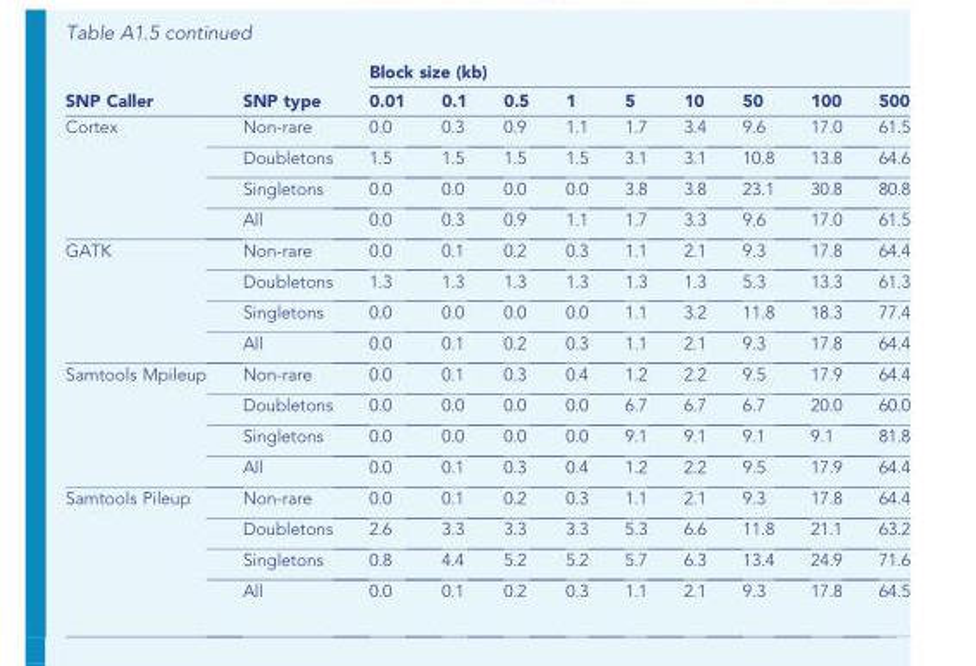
<table><thead><tr><td rowspan="2">SNP Caller</td><td rowspan="2">SNP type</td><td colspan="9">Block size (kb)</td></tr><tr><td>0.01</td><td>0.1</td><td>0.5</td><td>1</td><td>5</td><td>10</td><td>50</td><td>100</td><td>500</td></tr></thead><tbody><tr><td rowspan="4">Cortex</td><td>Non-rare</td><td>0.0</td><td>0.3</td><td>0.9</td><td>1.1</td><td>1.7</td><td>3.4</td><td>9.6</td><td>17.0</td><td>61.5</td></tr><tr><td>Doubletons</td><td>1.5</td><td>1.5</td><td>1.5</td><td>1.5</td><td>3.1</td><td>3.1</td><td>10.8</td><td>13.8</td><td>64.6</td></tr><tr><td>Singletons</td><td>0.0</td><td>0.0</td><td>0.0</td><td>0.0</td><td>3.8</td><td>3.8</td><td>23.1</td><td>30.8</td><td>80.8</td></tr><tr><td>All</td><td>0.0</td><td>0.3</td><td>0.9</td><td>1.1</td><td>1.7</td><td>3.3</td><td>9.6</td><td>17.0</td><td>61.5</td></tr><tr><td rowspan="4">GATK</td><td>Non-rare</td><td>0.0</td><td>0.1</td><td>0.2</td><td>0.3</td><td>1.1</td><td>2.1</td><td>9.3</td><td>17.8</td><td>64.4</td></tr><tr><td>Doubletons</td><td>1.3</td><td>1.3</td><td>1.3</td><td>1.3</td><td>1.3</td><td>1.3</td><td>5.3</td><td>13.3</td><td>61.3</td></tr><tr><td>Singletons</td><td>0.0</td><td>0.0</td><td>0.0</td><td>0.0</td><td>1.1</td><td>3.2</td><td>11.8</td><td>18.3</td><td>77.4</td></tr><tr><td>All</td><td>0.0</td><td>0.1</td><td>0.2</td><td>0.3</td><td>1.1</td><td>2.1</td><td>9.3</td><td>17.8</td><td>64.4</td></tr><tr><td rowspan="4">Samtools Mpileup</td><td>Non-rare</td><td>0.0</td><td>0.1</td><td>0.3</td><td>0.4</td><td>1.2</td><td>2.2</td><td>9.5</td><td>17.9</td><td>64.4</td></tr><tr><td>Doubletons</td><td>0.0</td><td>0.0</td><td>0.0</td><td>0.0</td><td>6.7</td><td>6.7</td><td>6.7</td><td>20.0</td><td>60.0</td></tr><tr><td>Singletons</td><td>0.0</td><td>0.0</td><td>0.0</td><td>0.0</td><td>9.1</td><td>9.1</td><td>9.1</td><td>9.1</td><td>81.8</td></tr><tr><td>All</td><td>0.0</td><td>0.1</td><td>0.3</td><td>0.4</td><td>1.2</td><td>2.2</td><td>9.5</td><td>17.9</td><td>64.4</td></tr><tr><td rowspan="4">Samtools Pileup</td><td>Non-rare</td><td>0.0</td><td>0.1</td><td>0.2</td><td>0.3</td><td>1.1</td><td>2.1</td><td>9.3</td><td>17.8</td><td>64.4</td></tr><tr><td>Doubletons</td><td>2.6</td><td>3.3</td><td>3.3</td><td>3.3</td><td>5.3</td><td>6.6</td><td>11.8</td><td>21.1</td><td>63.2</td></tr><tr><td>Singletons</td><td>0.8</td><td>4.4</td><td>5.2</td><td>5.2</td><td>5.7</td><td>6.3</td><td>13.4</td><td>24.9</td><td>71.6</td></tr><tr><td>All</td><td>0.0</td><td>0.1</td><td>0.2</td><td>0.3</td><td>1.1</td><td>2.1</td><td>9.3</td><td>17.8</td><td>64.5</td></tr></tbody></table>